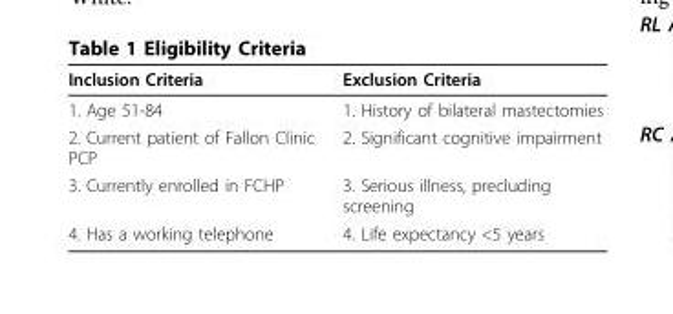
<table><thead><tr><td>Inclusion Criteria</td><td>Exclusion Criteria</td></tr></thead><tbody><tr><td>1. Age 51-84</td><td>1. History of bilateral mastectomies</td></tr><tr><td>2. Current patient of Fallon Clinic PCP</td><td>2. Significant cognitive impairment</td></tr><tr><td>3. Currently enrolled in FCHP</td><td>3. Serious illness, precluding screening</td></tr><tr><td>4. Has a working telephone</td><td>4. Life expectancy &lt;5 years</td></tr></tbody></table>